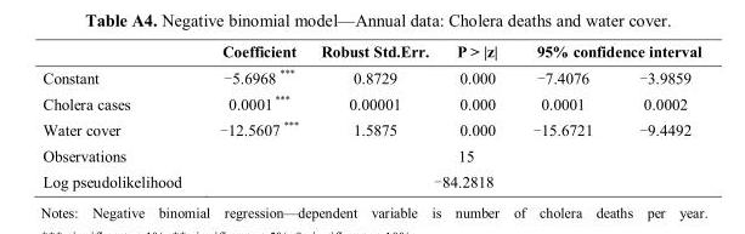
<table><thead><tr><td rowspan="2">Constant</td><td rowspan="2">Coefficient -5.6968 ***</td><td rowspan="2">Robust Std.Err. 0.8729</td><td rowspan="2">P &gt; |z| 0.000</td><td colspan="2">95% confidence interval</td></tr><tr><td>-7.4076</td><td>-3.9859</td></tr></thead><tbody><tr><td>Cholera cases</td><td>0.0001 ***</td><td>0.00001</td><td>0.000</td><td>0.0001</td><td>0.0002</td></tr><tr><td>Water cover</td><td>-12.5607 ***</td><td>1.5875</td><td>0.000</td><td>-15.6721</td><td>-9.4492</td></tr><tr><td>Observations</td><td colspan="5">15</td></tr><tr><td>Log pseudolikelihood</td><td colspan="5">-84.2818</td></tr></tbody></table>